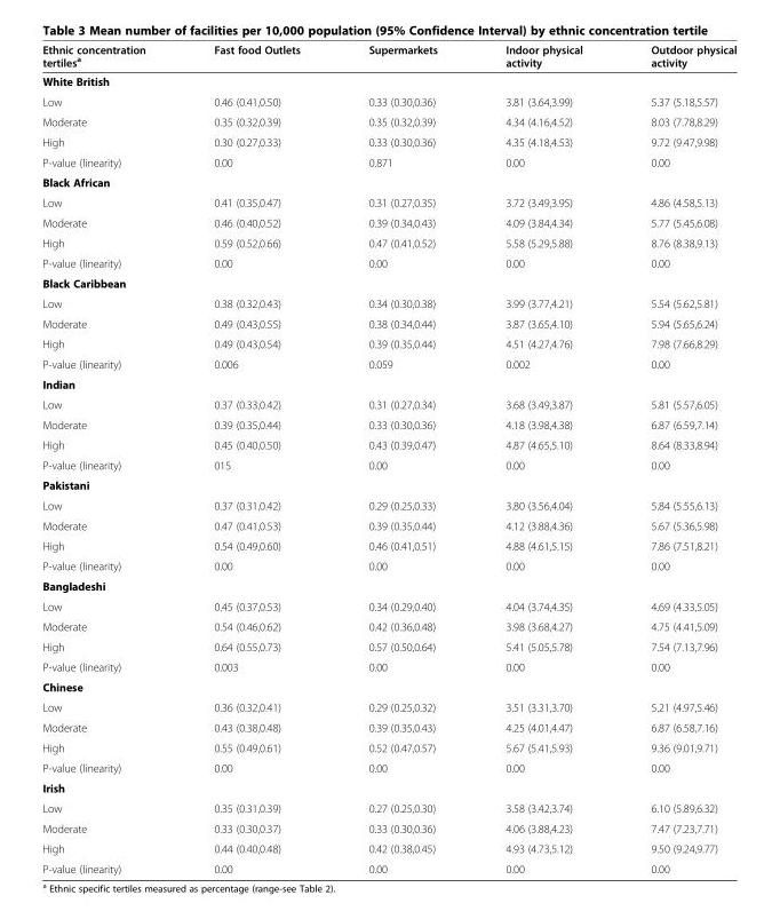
<table><thead><tr><td>Ethnic concentration tertiles<sup>a</sup></td><td>Fast food Outlets</td><td>Supermarkets</td><td>Indoor physical activity</td><td>Outdoor physical activity</td></tr></thead><tbody><tr><td colspan="5">White British</td></tr><tr><td>Low</td><td>0.46 (0.41,0.50)</td><td>0.33 (0.30,0.36)</td><td>3.81 (3.64,3.99)</td><td>5.37 (5.18,5.57)</td></tr><tr><td>Moderate</td><td>0.35 (0.32,0.39)</td><td>0.35 (0.32,0.39)</td><td>4.34 (4.16,4.52)</td><td>8.03 (7.78,8.29)</td></tr><tr><td>High</td><td>0.30 (0.27,0.33)</td><td>0.33 (0.30,0.36)</td><td>4.35 (4.18,4.53)</td><td>9.72 (9.47,9.98)</td></tr><tr><td>P-value (linearity)</td><td>0.00</td><td>0.871</td><td>0.00</td><td>0.00</td></tr><tr><td colspan="5">Black African</td></tr><tr><td>Low</td><td>0.41 (0.35,0.47)</td><td>0.31 (0.27,0.35)</td><td>3.72 (3.49,3.95)</td><td>4.86 (4.58,5.13)</td></tr><tr><td>Moderate</td><td>0.46 (0.40,0.52)</td><td>0.39 (0.34,0.43)</td><td>4.09 (3.84,4.34)</td><td>5.77 (5.45,6.08)</td></tr><tr><td>High</td><td>0.59 (0.52,0.66)</td><td>0.47 (0.41,0.52)</td><td>5.58 (5.29,5.88)</td><td>8.76 (8.38,9.13)</td></tr><tr><td>P-value (linearity)</td><td>0.00</td><td>0.00</td><td>0.00</td><td>0.00</td></tr><tr><td colspan="5">Black Caribbean</td></tr><tr><td>Low</td><td>0.38 (0.32,0.43)</td><td>0.34 (0.30,0.38)</td><td>3.99 (3.77,4.21)</td><td>5.54 (5.62,5.81)</td></tr><tr><td>Moderate</td><td>0.49 (0.43,0.55)</td><td>0.38 (0.34,0.44)</td><td>3.87 (3.65,4.10)</td><td>5.94 (5.65,6.24)</td></tr><tr><td>High</td><td>0.49 (0.43,0.54)</td><td>0.39 (0.35,0.44)</td><td>4.51 (4.27,4.76)</td><td>7.98 (7.66,8.29)</td></tr><tr><td>P-value (linearity)</td><td>0.006</td><td>0.059</td><td>0.002</td><td>0.00</td></tr><tr><td colspan="5">Indian</td></tr><tr><td>Low</td><td>0.37 (0.33,0.42)</td><td>0.31 (0.27,0.34)</td><td>3.68 (3.49,3.87)</td><td>5.81 (5.57,6.05)</td></tr><tr><td>Moderate</td><td>0.39 (0.35,0.44)</td><td>0.33 (0.30,0.36)</td><td>4.18 (3.98,4.38)</td><td>6.87 (6.59,7.14)</td></tr><tr><td>High</td><td>0.45 (0.40,0.50)</td><td>0.43 (0.39,0.47)</td><td>4.87 (4.65,5.10)</td><td>8.64 (8.33,8.94)</td></tr><tr><td>P-value (linearity)</td><td>015</td><td>0.00</td><td>0.00</td><td>0.00</td></tr><tr><td colspan="5">Pakistani</td></tr><tr><td>Low</td><td>0.37 (0.31,0.42)</td><td>0.29 (0.25,0.33)</td><td>3.80 (3.56,4.04)</td><td>5.84 (5.55,6.13)</td></tr><tr><td>Moderate</td><td>0.47 (0.41,0.53)</td><td>0.39 (0.35,0.44)</td><td>4.12 (3.88,4.36)</td><td>5.67 (5.36,5.98)</td></tr><tr><td>High</td><td>0.54 (0.49,0.60)</td><td>0.46 (0.41,0.51)</td><td>4.88 (4.61,5.15)</td><td>7.86 (7.51,8.21)</td></tr><tr><td>P-value (linearity)</td><td>0.00</td><td>0.00</td><td>0.00</td><td>0.00</td></tr><tr><td colspan="5">Bangladeshi</td></tr><tr><td>Low</td><td>0.45 (0.37,0.53)</td><td>0.34 (0.29,0.40)</td><td>4.04 (3.74,4.35)</td><td>4.69 (4.33,5.05)</td></tr><tr><td>Moderate</td><td>0.54 (0.46,0.62)</td><td>0.42 (0.36,0.48)</td><td>3.98 (3.68,4.27)</td><td>4.75 (4.41,5.09)</td></tr><tr><td>High</td><td>0.64 (0.55,0.73)</td><td>0.57 (0.50,0.64)</td><td>5.41 (5.05,5.78)</td><td>7.54 (7.13,7.96)</td></tr><tr><td>P-value (linearity)</td><td>0.003</td><td>0.00</td><td>0.00</td><td>0.00</td></tr><tr><td colspan="5">Chinese</td></tr><tr><td>Low</td><td>0.36 (0.32,0.41)</td><td>0.29 (0.25,0.32)</td><td>3.51 (3.31,3.70)</td><td>5.21 (4.97,5.46)</td></tr><tr><td>Moderate</td><td>0.43 (0.38,0.48)</td><td>0.39 (0.35,0.43)</td><td>4.25 (4.01,4.47)</td><td>6.87 (6.58,7.16)</td></tr><tr><td>High</td><td>0.55 (0.49,0.61)</td><td>0.52 (0.47,0.57)</td><td>5.67 (5.41,5.93)</td><td>9.36 (9.01,9.71)</td></tr><tr><td>P-value (linearity)</td><td>0.00</td><td>0.00</td><td>0.00</td><td>0.00</td></tr><tr><td colspan="5">Irish</td></tr><tr><td>Low</td><td>0.35 (0.31,0.39)</td><td>0.27 (0.25,0.30)</td><td>3.58 (3.42,3.74)</td><td>6.10 (5.89,6.32)</td></tr><tr><td>Moderate</td><td>0.33 (0.30,0.37)</td><td>0.33 (0.30,0.36)</td><td>4.06 (3.88,4.23)</td><td>7.47 (7.23,7.71)</td></tr><tr><td>High</td><td>0.44 (0.40,0.48)</td><td>0.42 (0.38,0.45)</td><td>4.93 (4.73,5.12)</td><td>9.50 (9.24,9.77)</td></tr><tr><td>P-value (linearity)</td><td>0.00</td><td>0.00</td><td>0.00</td><td>0.00</td></tr></tbody></table>